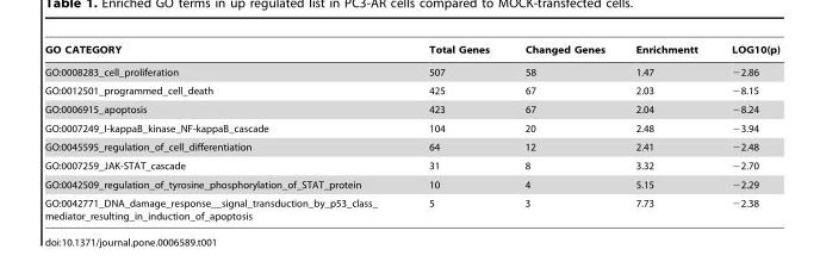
<table><thead><tr><td>GO CATEGORY</td><td>Total Genes</td><td>Changed Genes</td><td>Enrichmentt</td><td>LOG10(p)</td></tr></thead><tbody><tr><td>GO:0008283_cell_proliferation</td><td>507</td><td>58</td><td>1.47</td><td>−2.86</td></tr><tr><td>GO:0012501_programmed_cell_death</td><td>425</td><td>67</td><td>2.03</td><td>−8.15</td></tr><tr><td>GO:0006915_apoptosis</td><td>423</td><td>67</td><td>2.04</td><td>−8.24</td></tr><tr><td>GO:0007249_I-kappaB_kinase_NF-kappaB_cascade</td><td>104</td><td>20</td><td>2.48</td><td>−3.94</td></tr><tr><td>GO:0045595_regulation_of_cell_differentiation</td><td>64</td><td>12</td><td>2.41</td><td>−2.48</td></tr><tr><td>GO:0007259_JAK-STAT_cascade</td><td>31</td><td>8</td><td>3.32</td><td>−2.70</td></tr><tr><td>GO:0042509_regulation_of_tyrosine_phosphorylation_of_STAT_protein</td><td>10</td><td>4</td><td>5.15</td><td>−2.29</td></tr><tr><td>GO:0042771_DNA_damage_response__signal_transduction_by_p53_class_ mediator_resulting_in_induction_of_apoptosis</td><td>5</td><td>3</td><td>7.73</td><td>−2.38</td></tr></tbody></table>